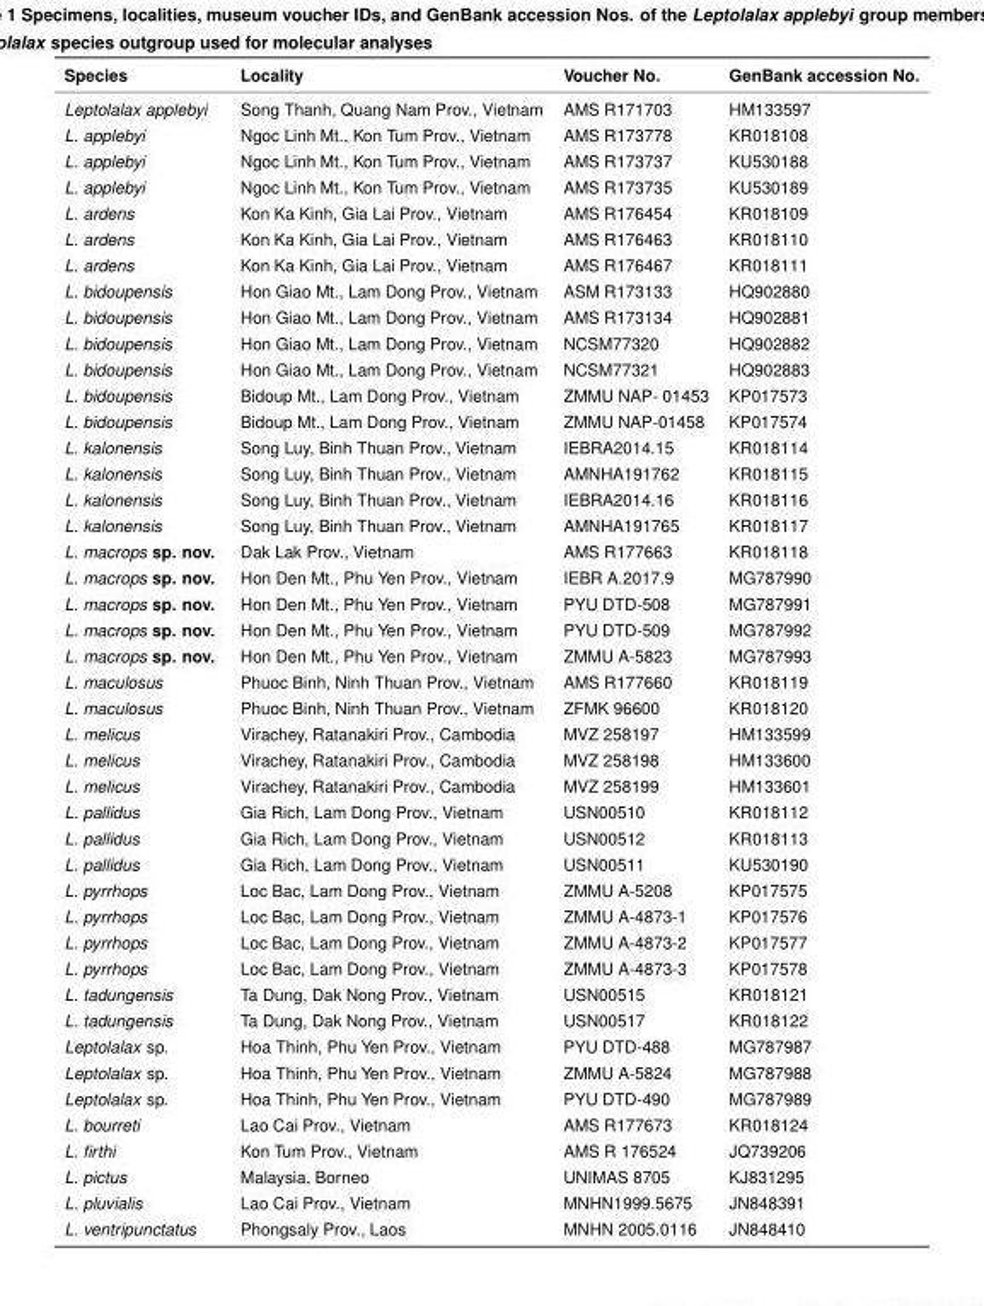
<table><thead><tr><td>Species</td><td>Locality</td><td>Voucher No.</td><td>GenBank accession No.</td></tr></thead><tbody><tr><td>Leptolalax applebyi</td><td>Song Thanh, Quang Nam Prov., Vietnam</td><td>AMS R171703</td><td>HM133597</td></tr><tr><td>L. applebyi</td><td>Ngoc Linh Mt., Kon Tum Prov., Vietnam</td><td>AMS R173778</td><td>KR018108</td></tr><tr><td>L. applebyi</td><td>Ngoc Linh Mt., Kon Tum Prov., Vietnam</td><td>AMS R173737</td><td>KU530188</td></tr><tr><td>L. applebyi</td><td>Ngoc Linh Mt., Kon Tum Prov., Vietnam</td><td>AMS R173735</td><td>KU530189</td></tr><tr><td>L. ardens</td><td>Kon Ka Kinh, Gia Lai Prov., Vietnam</td><td>AMS R176454</td><td>KR018109</td></tr><tr><td>L. ardens</td><td>Kon Ka Kinh, Gia Lai Prov., Vietnam</td><td>AMS R176463</td><td>KR018110</td></tr><tr><td>L. ardens</td><td>Kon Ka Kinh, Gia Lai Prov., Vietnam</td><td>AMS R176467</td><td>KR018111</td></tr><tr><td>L. bidoupensis</td><td>Hon Giao Mt., Lam Dong Prov., Vietnam</td><td>ASM R173133</td><td>HQ902880</td></tr><tr><td>L. bidoupensis</td><td>Hon Giao Mt., Lam Dong Prov., Vietnam</td><td>AMS R173134</td><td>HQ902881</td></tr><tr><td>L. bidoupensis</td><td>Hon Giao Mt., Lam Dong Prov., Vietnam</td><td>NCSM77320</td><td>HQ902882</td></tr><tr><td>L. bidoupensis</td><td>Hon Giao Mt., Lam Dong Prov., Vietnam</td><td>NCSM77321</td><td>HQ902883</td></tr><tr><td>L. bidoupensis</td><td>Bidoup Mt., Lam Dong Prov., Vietnam</td><td>ZMMU NAP- 01453</td><td>KP017573</td></tr><tr><td>L. bidoupensis</td><td>Bidoup Mt., Lam Dong Prov., Vietnam</td><td>ZMMU NAP-01458</td><td>KP017574</td></tr><tr><td>L. kalonensis</td><td>Song Luy, Binh Thuan Prov., Vietnam</td><td>IEBRA2014.15</td><td>KR018114</td></tr><tr><td>L. kalonensis</td><td>Song Luy, Binh Thuan Prov., Vietnam</td><td>AMNHA191762</td><td>KR018115</td></tr><tr><td>L. kalonensis</td><td>Song Luy, Binh Thuan Prov., Vietnam</td><td>IEBRA2014.16</td><td>KR018116</td></tr><tr><td>L. kalonensis</td><td>Song Luy, Binh Thuan Prov., Vietnam</td><td>AMNHA191765</td><td>KR018117</td></tr><tr><td>L. macrops sp. nov.</td><td>Dak Lak Prov., Vietnam</td><td>AMS R177663</td><td>KR018118</td></tr><tr><td>L. macrops sp. nov.</td><td>Hon Den Mt., Phu Yen Prov., Vietnam</td><td>IEBR A.2017.9</td><td>MG787990</td></tr><tr><td>L. macrops sp. nov.</td><td>Hon Den Mt., Phu Yen Prov., Vietnam</td><td>PYU DTD-508</td><td>MG787991</td></tr><tr><td>L. macrops sp. nov.</td><td>Hon Den Mt., Phu Yen Prov., Vietnam</td><td>PYU DTD-509</td><td>MG787992</td></tr><tr><td>L. macrops sp. nov.</td><td>Hon Den Mt., Phu Yen Prov., Vietnam</td><td>ZMMU A-5823</td><td>MG787993</td></tr><tr><td>L. maculosus</td><td>Phuoc Binh, Ninh Thuan Prov., Vietnam</td><td>AMS R177660</td><td>KR018119</td></tr><tr><td>L. maculosus</td><td>Phuoc Binh, Ninh Thuan Prov., Vietnam</td><td>ZFMK 96600</td><td>KR018120</td></tr><tr><td>L. melicus</td><td>Virachey, Ratanakiri Prov., Cambodia</td><td>MVZ 258197</td><td>HM133599</td></tr><tr><td>L. melicus</td><td>Virachey, Ratanakiri Prov., Cambodia</td><td>MVZ 258198</td><td>HM133600</td></tr><tr><td>L. melicus</td><td>Virachey, Ratanakiri Prov., Cambodia</td><td>MVZ 258199</td><td>HM133601</td></tr><tr><td>L. pallidus</td><td>Gia Rich, Lam Dong Prov., Vietnam</td><td>USN00510</td><td>KR018112</td></tr><tr><td>L. pallidus</td><td>Gia Rich, Lam Dong Prov., Vietnam</td><td>USN00512</td><td>KR018113</td></tr><tr><td>L. pallidus</td><td>Gia Rich, Lam Dong Prov., Vietnam</td><td>USN00511</td><td>KU530190</td></tr><tr><td>L. pyrrhops</td><td>Loc Bac, Lam Dong Prov., Vietnam</td><td>ZMMU A-5208</td><td>KP017575</td></tr><tr><td>L. pyrrhops</td><td>Loc Bac, Lam Dong Prov., Vietnam</td><td>ZMMU A-4873-1</td><td>KP017576</td></tr><tr><td>L. pyrrhops</td><td>Loc Bac, Lam Dong Prov., Vietnam</td><td>ZMMU A-4873-2</td><td>KP017577</td></tr><tr><td>L. pyrrhops</td><td>Loc Bac, Lam Dong Prov., Vietnam</td><td>ZMMU A-4873-3</td><td>KP017578</td></tr><tr><td>L. tadungensis</td><td>Ta Dung, Dak Nong Prov., Vietnam</td><td>USN00515</td><td>KR018121</td></tr><tr><td>L. tadungensis</td><td>Ta Dung, Dak Nong Prov., Vietnam</td><td>USN00517</td><td>KR018122</td></tr><tr><td>Leptolalax sp.</td><td>Hoa Thinh, Phu Yen Prov., Vietnam</td><td>PYU DTD-488</td><td>MG787987</td></tr><tr><td>Leptolalax sp.</td><td>Hoa Thinh, Phu Yen Prov., Vietnam</td><td>ZMMU A-5824</td><td>MG787988</td></tr><tr><td>Leptolalax sp.</td><td>Hoa Thinh, Phu Yen Prov., Vietnam</td><td>PYU DTD-490</td><td>MG787989</td></tr><tr><td>L. bourreti</td><td>Lao Cai Prov., Vietnam</td><td>AMS R177673</td><td>KR018124</td></tr><tr><td>L. firthi</td><td>Kon Tum Prov., Vietnam</td><td>AMS R 176524</td><td>JQ739206</td></tr><tr><td>L. pictus</td><td>Malaysia, Borneo</td><td>UNIMAS 8705</td><td>KJ831295</td></tr><tr><td>L. pluvialis</td><td>Lao Cai Prov., Vietnam</td><td>MNHN1999.5675</td><td>JN848391</td></tr><tr><td>L. ventripunctatus</td><td>Phongsaly Prov., Laos</td><td>MNHN 2005.0116</td><td>JN848410</td></tr></tbody></table>